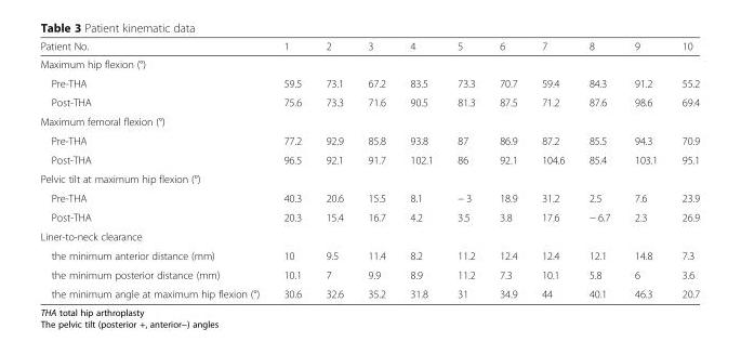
<table><thead><tr><td>Patient No.</td><td>1</td><td>2</td><td>3</td><td>4</td><td>5</td><td>6</td><td>7</td><td>8</td><td>9</td><td>10</td></tr></thead><tbody><tr><td colspan="11">Maximum hip flexion (°)</td></tr><tr><td>Pre-THA</td><td>59.5</td><td>73.1</td><td>67.2</td><td>83.5</td><td>73.3</td><td>70.7</td><td>59.4</td><td>84.3</td><td>91.2</td><td>55.2</td></tr><tr><td>Post-THA</td><td>75.6</td><td>73.3</td><td>71.6</td><td>90.5</td><td>81.3</td><td>87.5</td><td>71.2</td><td>87.6</td><td>98.6</td><td>69.4</td></tr><tr><td colspan="11">Maximum femoral flexion (°)</td></tr><tr><td>Pre-THA</td><td>77.2</td><td>92.9</td><td>85.8</td><td>93.8</td><td>87</td><td>86.9</td><td>87.2</td><td>85.5</td><td>94.3</td><td>70.9</td></tr><tr><td>Post-THA</td><td>96.5</td><td>92.1</td><td>91.7</td><td>102.1</td><td>86</td><td>92.1</td><td>104.6</td><td>85.4</td><td>103.1</td><td>95.1</td></tr><tr><td colspan="11">Pelvic tilt at maximum hip flexion (°)</td></tr><tr><td>Pre-THA</td><td>40.3</td><td>20.6</td><td>15.5</td><td>8.1</td><td>− 3</td><td>18.9</td><td>31.2</td><td>2.5</td><td>7.6</td><td>23.9</td></tr><tr><td>Post-THA</td><td>20.3</td><td>15.4</td><td>16.7</td><td>4.2</td><td>3.5</td><td>3.8</td><td>17.6</td><td>− 6.7</td><td>2.3</td><td>26.9</td></tr><tr><td colspan="11">Liner-to-neck clearance</td></tr><tr><td>the minimum anterior distance (mm)</td><td>10</td><td>9.5</td><td>11.4</td><td>8.2</td><td>11.2</td><td>12.4</td><td>12.4</td><td>12.1</td><td>14.8</td><td>7.3</td></tr><tr><td>the minimum posterior distance (mm)</td><td>10.1</td><td>7</td><td>9.9</td><td>8.9</td><td>11.2</td><td>7.3</td><td>10.1</td><td>5.8</td><td>6</td><td>3.6</td></tr><tr><td>the minimum angle at maximum hip flexion (°)</td><td>30.6</td><td>32.6</td><td>35.2</td><td>31.8</td><td>31</td><td>34.9</td><td>44</td><td>40.1</td><td>46.3</td><td>20.7</td></tr></tbody></table>